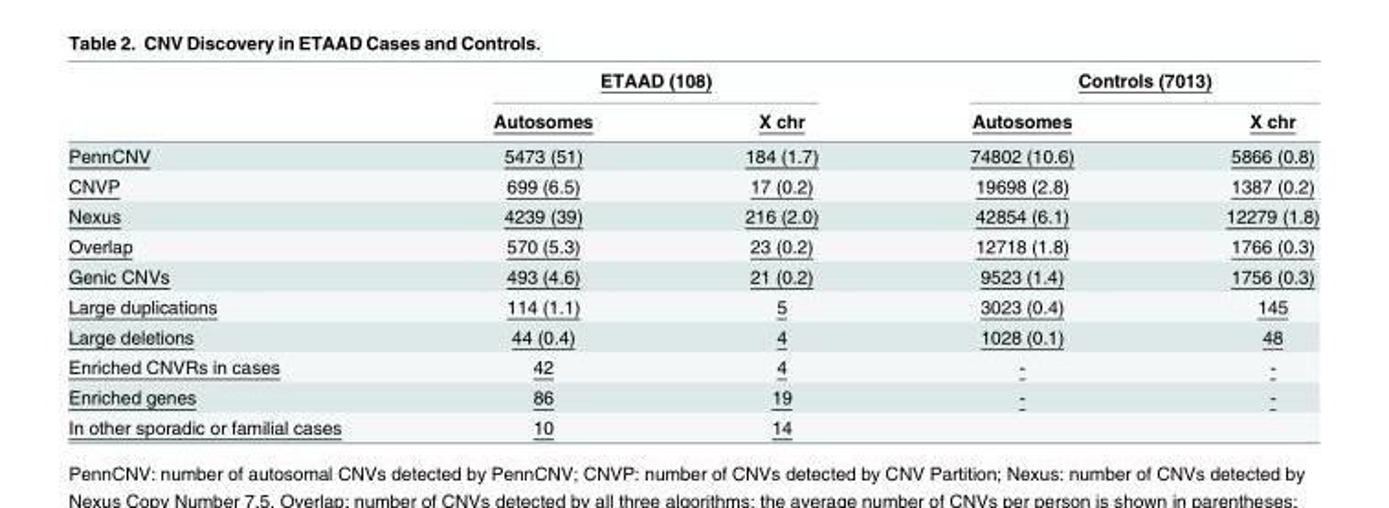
<table><thead><tr><td rowspan="2"></td><td colspan="2">ETAAD (108)</td><td colspan="2">Controls (7013)</td></tr><tr><td>Autosomes</td><td>X chr</td><td>Autosomes</td><td>X chr</td></tr></thead><tbody><tr><td>PennCNV</td><td>5473 (51)</td><td>184 (1.7)</td><td>74802 (10.6)</td><td>5866 (0.8)</td></tr><tr><td>CNVP</td><td>699 (6.5)</td><td>17 (0.2)</td><td>19698 (2.8)</td><td>1387 (0.2)</td></tr><tr><td>Nexus</td><td>4239 (39)</td><td>216 (2.0)</td><td>42854 (6.1)</td><td>12279 (1.8)</td></tr><tr><td>Overlap</td><td>570 (5.3)</td><td>23 (0.2)</td><td>12718 (1.8)</td><td>1766 (0.3)</td></tr><tr><td>Genic CNVs</td><td>493 (4.6)</td><td>21 (0.2)</td><td>9523 (1.4)</td><td>1756 (0.3)</td></tr><tr><td>Large duplications</td><td>114 (1.1)</td><td>5</td><td>3023 (0.4)</td><td>145</td></tr><tr><td>Large deletions</td><td>44 (0.4)</td><td>4</td><td>1028 (0.1)</td><td>48</td></tr><tr><td>Enriched CNVRs in cases</td><td>42</td><td>4</td><td>-</td><td>-</td></tr><tr><td>Enriched genes</td><td>86</td><td>19</td><td>-</td><td>-</td></tr><tr><td>In other sporadic or familial cases</td><td>10</td><td>14</td><td></td><td></td></tr></tbody></table>